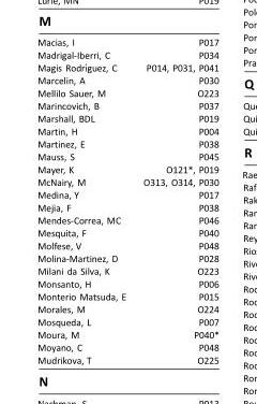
<table><tbody><tr><td>Macias, I</td><td>P017</td></tr><tr><td>Madrigal-Iberri, C</td><td>P034</td></tr><tr><td>Magis Rodrı´guez, C</td><td>P014, P031, P041</td></tr><tr><td>Marcelin, A</td><td>P030</td></tr><tr><td>Mellilo Sauer, M</td><td>O223</td></tr><tr><td>Marincovich, B</td><td>P037</td></tr><tr><td>Marshall, BDL</td><td>P019</td></tr><tr><td>Martin, H</td><td>P004</td></tr><tr><td>Martinez, E</td><td>P038</td></tr><tr><td>Mauss, S</td><td>P045</td></tr><tr><td>Mayer, K</td><td>O121*, P019</td></tr><tr><td>McNairy, M</td><td>O313, O314, P030</td></tr><tr><td>Medina, Y</td><td>P017</td></tr><tr><td>Mejia, F</td><td>P038</td></tr><tr><td>Mendes-Correa, MC</td><td>P046</td></tr><tr><td>Mesquita, F</td><td>P040</td></tr><tr><td>Molfese, V</td><td>P048</td></tr><tr><td>Molina-Martinez, D</td><td>P028</td></tr><tr><td>Milani da Silva, K</td><td>O223</td></tr><tr><td>Monsanto, H</td><td>P006</td></tr><tr><td>Monterio Matsuda, E</td><td>P015</td></tr><tr><td>Morales, M</td><td>O224</td></tr><tr><td>Mosqueda, L</td><td>P007</td></tr><tr><td>Moura, M</td><td>P040*</td></tr><tr><td>Moyano, C</td><td>P048</td></tr><tr><td>Mudrikova, T</td><td>O225</td></tr></tbody></table>